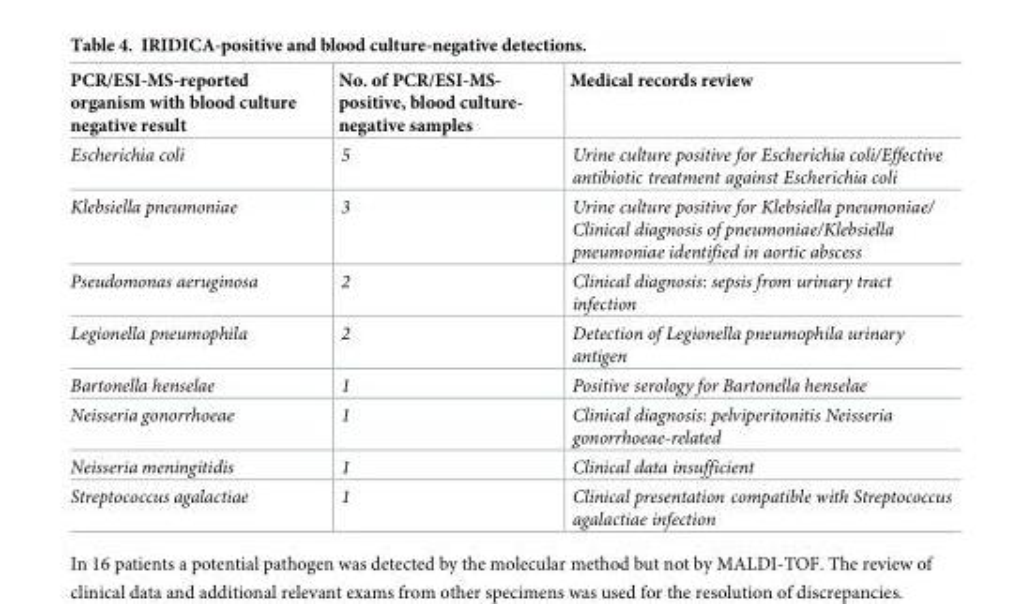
<table><thead><tr><td>PCR/ESI-MS-reported organism with blood culture negative result</td><td>No. of PCR/ESI-MS- positive, blood culture- negative samples</td><td>Medical records review</td></tr></thead><tbody><tr><td>Escherichia coli</td><td>5</td><td>Urine culture positive for Escherichia coli/Effective antibiotic treatment against Escherichia coli</td></tr><tr><td>Klebsiella pneumoniae</td><td>3</td><td>Urine culture positive for Klebsiella pneumoniae/ Clinical diagnosis of pneumoniae/Klebsiella pneumoniae identified in aortic abscess</td></tr><tr><td>Pseudomonas aeruginosa</td><td>2</td><td>Clinical diagnosis: sepsis from urinary tract infection</td></tr><tr><td>Legionella pneumophila</td><td>2</td><td>Detection of Legionella pneumophila urinary antigen</td></tr><tr><td>Bartonella henselae</td><td>1</td><td>Positive serology for Bartonella henselae</td></tr><tr><td>Neisseria gonorrhoeae</td><td>1</td><td>Clinical diagnosis: pelviperitonitis Neisseria gonorrhoeae-related</td></tr><tr><td>Neisseria meningitidis</td><td>1</td><td>Clinical data insufficient</td></tr><tr><td>Streptococcus agalactiae</td><td>1</td><td>Clinical presentation compatible with Streptococcus agalactiae infection</td></tr></tbody></table>